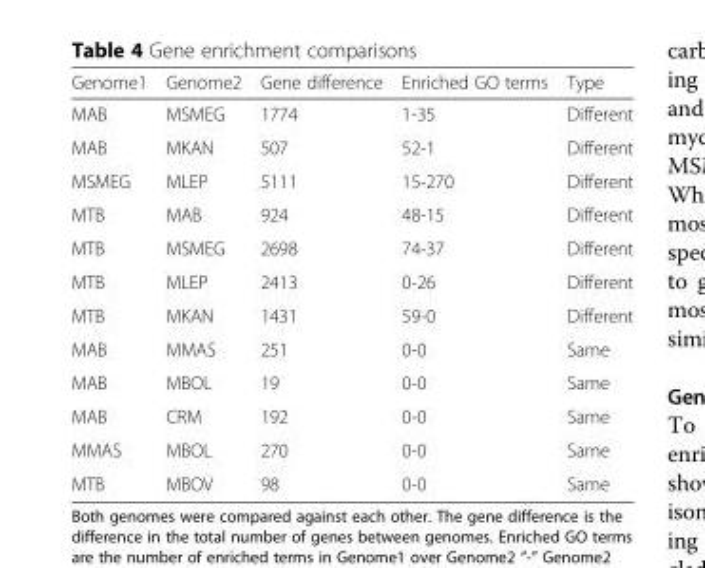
<table><thead><tr><td>Genome1</td><td>Genome2</td><td>Gene difference</td><td>Enriched GO terms</td><td>Type</td></tr></thead><tbody><tr><td>MAB</td><td>MSMEG</td><td>1774</td><td>1-35</td><td>Different</td></tr><tr><td>MAB</td><td>MKAN</td><td>507</td><td>52-1</td><td>Different</td></tr><tr><td>MSMEG</td><td>MLEP</td><td>5111</td><td>15-270</td><td>Different</td></tr><tr><td>MTB</td><td>MAB</td><td>924</td><td>48-15</td><td>Different</td></tr><tr><td>MTB</td><td>MSMEG</td><td>2698</td><td>74-37</td><td>Different</td></tr><tr><td>MTB</td><td>MLEP</td><td>2413</td><td>0-26</td><td>Different</td></tr><tr><td>MTB</td><td>MKAN</td><td>1431</td><td>59-0</td><td>Different</td></tr><tr><td>MAB</td><td>MMAS</td><td>251</td><td>0-0</td><td>Same</td></tr><tr><td>MAB</td><td>MBOL</td><td>19</td><td>0-0</td><td>Same</td></tr><tr><td>MAB</td><td>CRM</td><td>192</td><td>0-0</td><td>Same</td></tr><tr><td>MMAS</td><td>MBOL</td><td>270</td><td>0-0</td><td>Same</td></tr><tr><td>MTB</td><td>MBOV</td><td>98</td><td>0-0</td><td>Same</td></tr></tbody></table>